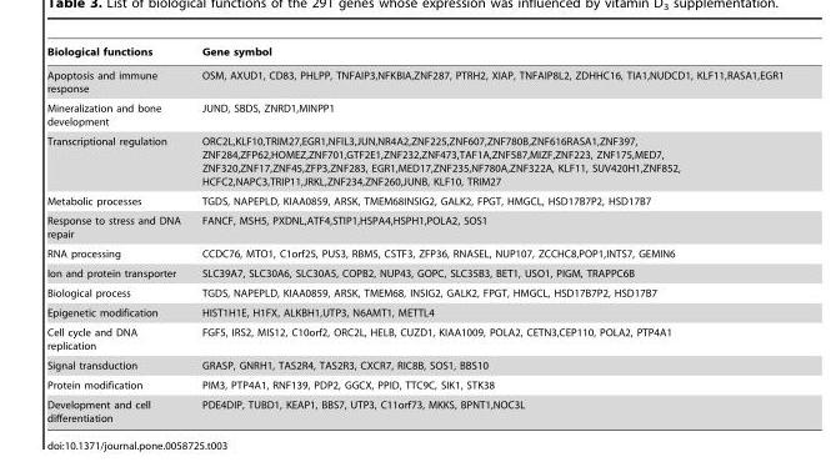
<table><thead><tr><td>Biological functions</td><td>Gene symbol</td></tr></thead><tbody><tr><td>Apoptosis and immune response</td><td>OSM, AXUD1, CD83, PHLPP, TNFAIP3,NFKBIA,ZNF287, PTRH2, XIAP, TNFAIP8L2, ZDHHC16, TIA1,NUDCD1, KLF11,RASA1,EGR1</td></tr><tr><td>Mineralization and bone development</td><td>JUND, SBDS, ZNRD1,MINPP1</td></tr><tr><td>Transcriptional regulation</td><td>ORC2L,KLF10,TRIM27,EGR1,NFIL3,JUN,NR4A2,ZNF225,ZNF607,ZNF780B,ZNF616RASA1,ZNF397, ZNF284,ZFP62,HOMEZ,ZNF701,GTF2E1,ZNF232,ZNF473,TAF1A,ZNF587,MIZF,ZNF223, ZNF175,MED7, ZNF320,ZNF17,ZNF45,ZFP3,ZNF283, EGR1,MED17,ZNF235,NF780A,ZNF322A, KLF11, SUV420H1,ZNF852, HCFC2,NAPC3,TRIP11,JRKL,ZNF234,ZNF260,JUNB, KLF10, TRIM27</td></tr><tr><td>Metabolic processes</td><td>TGDS, NAPEPLD, KIAA0859, ARSK, TMEM68INSIG2, GALK2, FPGT, HMGCL, HSD17B7P2, HSD17B7</td></tr><tr><td>Response to stress and DNA repair</td><td>FANCF, MSH5, PXDNL,ATF4,STIP1,HSPA4,HSPH1,POLA2, SOS1</td></tr><tr><td>RNA processing</td><td>CCDC76, MTO1, C1orf25, PUS3, RBM5, CSTF3, ZFP36, RNASEL, NUP107, ZCCHC8,POP1,INTS7, GEMIN6</td></tr><tr><td>Ion and protein transporter</td><td>SLC39A7, SLC30A6, SLC30A5, COPB2, NUP43, GOPC, SLC35B3, BET1, USO1, PIGM, TRAPPC6B</td></tr><tr><td>Biological process</td><td>TGDS, NAPEPLD, KIAA0859, ARSK, TMEM68, INSIG2, GALK2, FPGT, HMGCL, HSD17B7P2, HSD17B7</td></tr><tr><td>Epigenetic modification</td><td>HIST1H1E, H1FX, ALKBH1,UTP3, N6AMT1, METTL4</td></tr><tr><td>Cell cycle and DNA replication</td><td>FGF5, IRS2, MIS12, C10orf2, ORC2L, HELB, CUZD1, KIAA1009, POLA2, CETN3,CEP110, POLA2, PTP4A1</td></tr><tr><td>Signal transduction</td><td>GRASP, GNRH1, TAS2R4, TAS2R3, CXCR7, RIC8B, SOS1, BBS10</td></tr><tr><td>Protein modification</td><td>PIM3, PTP4A1, RNF139, PDP2, GGCX, PPID, TTC9C, SIK1, STK38</td></tr><tr><td>Development and cell differentiation</td><td>PDE4DIP, TUBD1, KEAP1, BBS7, UTP3, C11orf73, MKKS, BPNT1,NOC3L</td></tr></tbody></table>